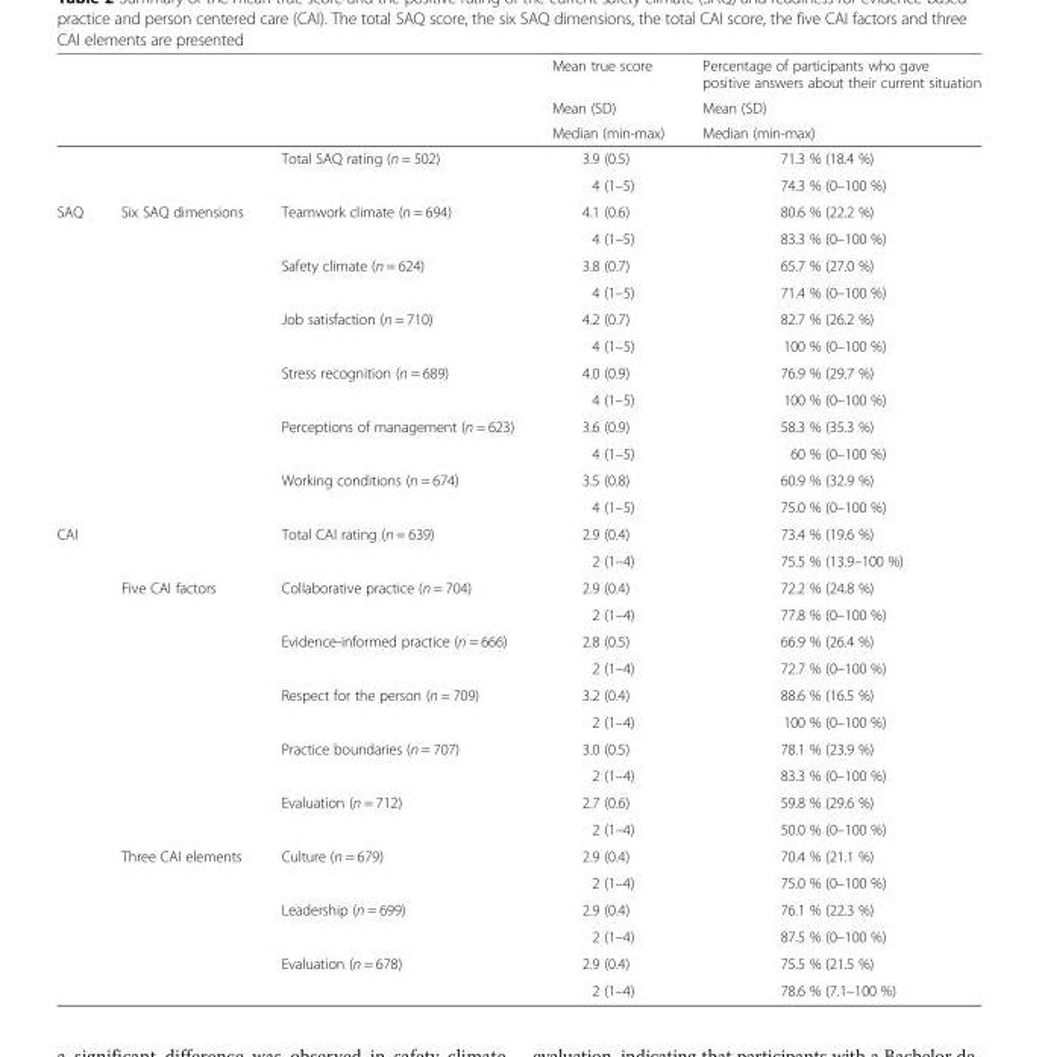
<table><thead><tr><td rowspan="3"></td><td rowspan="3"></td><td rowspan="3"></td><td rowspan="3">Mean true score Mean (SD) Median (min-max)</td><td rowspan="3">Percentage of participants who gave positive answers about their current situation Mean (SD) Median (min-max)</td></tr><tr></tr><tr></tr></thead><tbody><tr><td rowspan="2" colspan="2"></td><td rowspan="2">Total SAQ rating (n = 502)</td><td>3.9 (0.5)</td><td>71.3 % (18.4 %)</td></tr><tr><td>4 (1–5)</td><td>74.3 % (0–100 %)</td></tr><tr><td rowspan="12">SAQ</td><td rowspan="12">Six SAQ dimensions</td><td rowspan="2">Teamwork climate (n = 694)</td><td>4.1 (0.6)</td><td>80.6 % (22.2 %)</td></tr><tr><td>4 (1–5)</td><td>83.3 % (0–100 %)</td></tr><tr><td rowspan="2">Safety climate (n = 624)</td><td>3.8 (0.7)</td><td>65.7 % (27.0 %)</td></tr><tr><td>4 (1–5)</td><td>71.4 % (0–100 %)</td></tr><tr><td rowspan="2">Job satisfaction (n = 710)</td><td>4.2 (0.7)</td><td>82.7 % (26.2 %)</td></tr><tr><td>4 (1–5)</td><td>100 % (0–100 %)</td></tr><tr><td rowspan="2">Stress recognition (n = 689)</td><td>4.0 (0.9)</td><td>76.9 % (29.7 %)</td></tr><tr><td>4 (1–5)</td><td>100 % (0–100 %)</td></tr><tr><td rowspan="2">Perceptions of management (n = 623)</td><td>3.6 (0.9)</td><td>58.3 % (35.3 %)</td></tr><tr><td>4 (1–5)</td><td>60 % (0–100 %)</td></tr><tr><td rowspan="2">Working conditions (n = 674)</td><td>3.5 (0.8)</td><td>60.9 % (32.9 %)</td></tr><tr><td>4 (1–5)</td><td>75.0 % (0–100 %)</td></tr><tr><td rowspan="18">CAI</td><td rowspan="2"></td><td rowspan="2">Total CAI rating (n = 639)</td><td>2.9 (0.4)</td><td>73.4 % (19.6 %)</td></tr><tr><td>2 (1–4)</td><td>75.5 % (13.9–100 %)</td></tr><tr><td rowspan="10">Five CAI factors</td><td rowspan="2">Collaborative practice (n = 704)</td><td>2.9 (0.4)</td><td>72.2 % (24.8 %)</td></tr><tr><td>2 (1–4)</td><td>77.8 % (0–100 %)</td></tr><tr><td rowspan="2">Evidence-informed practice (n = 666)</td><td>2.8 (0.5)</td><td>66.9 % (26.4 %)</td></tr><tr><td>2 (1–4)</td><td>72.7 % (0–100 %)</td></tr><tr><td rowspan="2">Respect for the person (n = 709)</td><td>3.2 (0.4)</td><td>88.6 % (16.5 %)</td></tr><tr><td>2 (1–4)</td><td>100 % (0–100 %)</td></tr><tr><td rowspan="2">Practice boundaries (n = 707)</td><td>3.0 (0.5)</td><td>78.1 % (23.9 %)</td></tr><tr><td>2 (1–4)</td><td>83.3 % (0–100 %)</td></tr><tr><td rowspan="2">Evaluation (n = 712)</td><td>2.7 (0.6)</td><td>59.8 % (29.6 %)</td></tr><tr><td>2 (1–4)</td><td>50.0 % (0–100 %)</td></tr><tr><td rowspan="6">Three CAI elements</td><td rowspan="2">Culture (n = 679)</td><td>2.9 (0.4)</td><td>70.4 % (21.1 %)</td></tr><tr><td>2 (1–4)</td><td>75.0 % (0–100 %)</td></tr><tr><td rowspan="2">Leadership (n = 699)</td><td>2.9 (0.4)</td><td>76.1 % (22.3 %)</td></tr><tr><td>2 (1–4)</td><td>87.5 % (0–100 %)</td></tr><tr><td rowspan="2">Evaluation (n = 678)</td><td>2.9 (0.4)</td><td>75.5 % (21.5 %)</td></tr><tr><td>2 (1–4)</td><td>78.6 % (7.1–100 %)</td></tr></tbody></table>